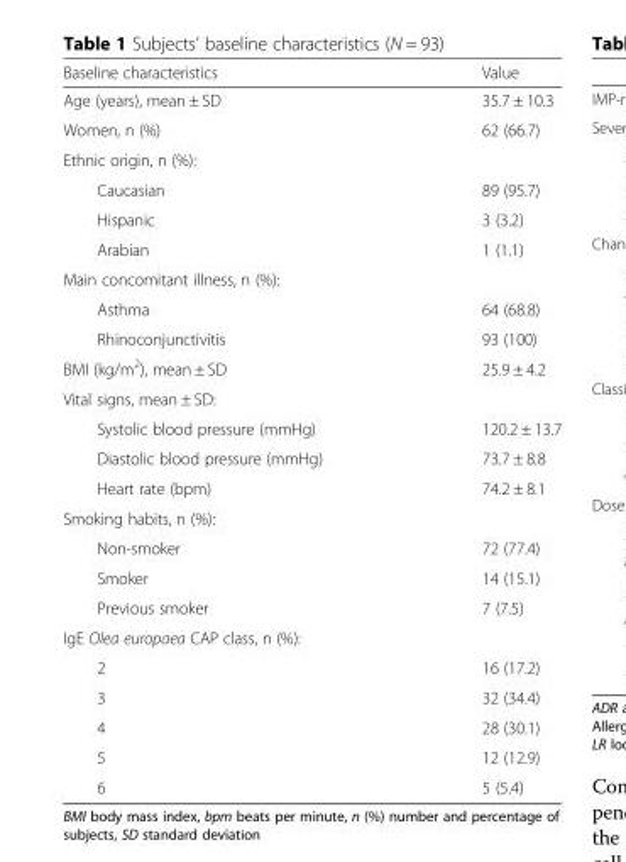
<table><thead><tr><td>Baseline characteristics</td><td>Value</td></tr></thead><tbody><tr><td>Age (years), mean ± SD</td><td>35.7 ± 10.3</td></tr><tr><td>Women, n (%)</td><td>62 (66.7)</td></tr><tr><td colspan="2">Ethnic origin, n (%):</td></tr><tr><td>Caucasian</td><td>89 (95.7)</td></tr><tr><td>Hispanic</td><td>3 (3.2)</td></tr><tr><td>Arabian</td><td>1 (1.1)</td></tr><tr><td colspan="2">Main concomitant illness, n (%):</td></tr><tr><td>Asthma</td><td>64 (68.8)</td></tr><tr><td>Rhinoconjunctivitis</td><td>93 (100)</td></tr><tr><td>BMI (kg/m<sup>2</sup>), mean ± SD</td><td>25.9 ± 4.2</td></tr><tr><td colspan="2">Vital signs, mean ± SD:</td></tr><tr><td>Systolic blood pressure (mmHg)</td><td>120.2 ± 13.7</td></tr><tr><td>Diastolic blood pressure (mmHg)</td><td>73.7 ± 8.8</td></tr><tr><td>Heart rate (bpm)</td><td>74.2 ± 8.1</td></tr><tr><td colspan="2">Smoking habits, n (%):</td></tr><tr><td>Non-smoker</td><td>72 (77.4)</td></tr><tr><td>Smoker</td><td>14 (15.1)</td></tr><tr><td>Previous smoker</td><td>7 (7.5)</td></tr><tr><td colspan="2">IgE Olea europaea CAP class, n (%):</td></tr><tr><td>2</td><td>16 (17.2)</td></tr><tr><td>3</td><td>32 (34.4)</td></tr><tr><td>4</td><td>28 (30.1)</td></tr><tr><td>5</td><td>12 (12.9)</td></tr><tr><td>6</td><td>5 (5.4)</td></tr></tbody></table>